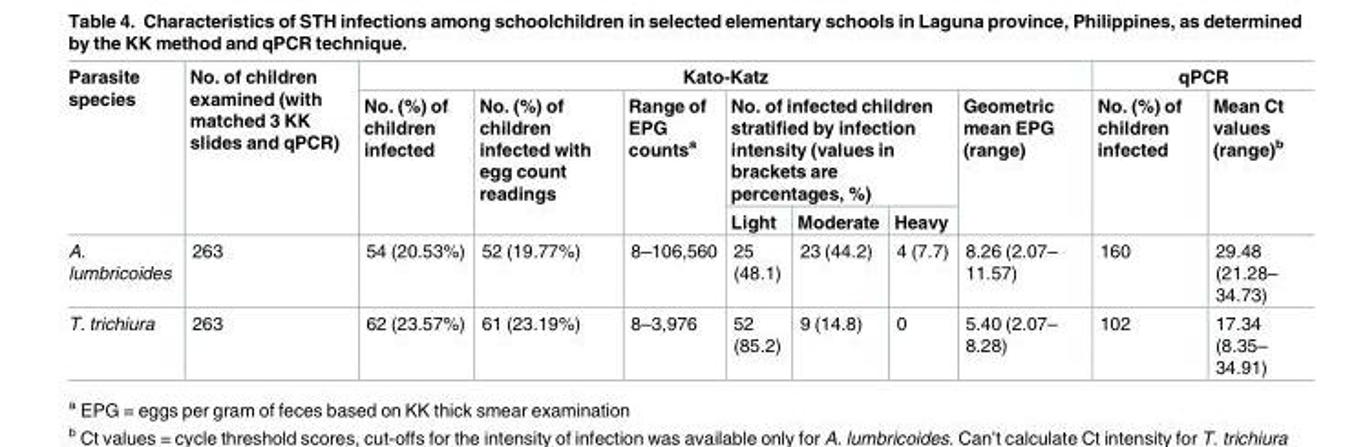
<table><thead><tr><td rowspan="3">Parasite species</td><td rowspan="3">No. of children examined (with matched 3 KK slides and qPCR)</td><td colspan="7">Kato-Katz</td><td colspan="2">qPCR</td></tr><tr><td rowspan="2">No. (%) of children infected</td><td rowspan="2">No. (%) of children infected with egg count readings</td><td rowspan="2">Range of EPG counts<sup>a</sup></td><td colspan="3">No. of infected children stratified by infection intensity (values in brackets are percentages, %)</td><td rowspan="2">Geometric mean EPG (range)</td><td rowspan="2">No. (%) of children infected</td><td rowspan="2">Mean Ct values (range)<sup>b</sup></td></tr><tr><td>Light</td><td>Moderate</td><td>Heavy</td></tr></thead><tbody><tr><td>A. lumbricoides</td><td>263</td><td>54 (20.53%)</td><td>52 (19.77%)</td><td>8–106,560</td><td>25 (48.1)</td><td>23 (44.2)</td><td>4 (7.7)</td><td>8.26 (2.07– 11.57)</td><td>160</td><td>29.48 (21.28– 34.73)</td></tr><tr><td>T. trichiura</td><td>263</td><td>62 (23.57%)</td><td>61 (23.19%)</td><td>8–3,976</td><td>52 (85.2)</td><td>9 (14.8)</td><td>0</td><td>5.40 (2.07– 8.28)</td><td>102</td><td>17.34 (8.35– 34.91)</td></tr></tbody></table>